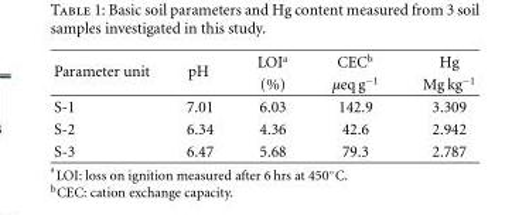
<table><thead><tr><td rowspan="2">Parameter unit</td><td rowspan="2">pH</td><td rowspan="2">LOI<sup>a</sup> (%)</td><td rowspan="2">CEC<sup>b</sup> µeq g<sup>−1</sup></td><td rowspan="2">Hg Mg kg<sup>−1</sup></td></tr><tr></tr></thead><tbody><tr><td>S-1</td><td>7.01</td><td>6.03</td><td>142.9</td><td>3.309</td></tr><tr><td>S-2</td><td>6.34</td><td>4.36</td><td>42.6</td><td>2.942</td></tr><tr><td>S-3</td><td>6.47</td><td>5.68</td><td>79.3</td><td>2.787</td></tr></tbody></table>